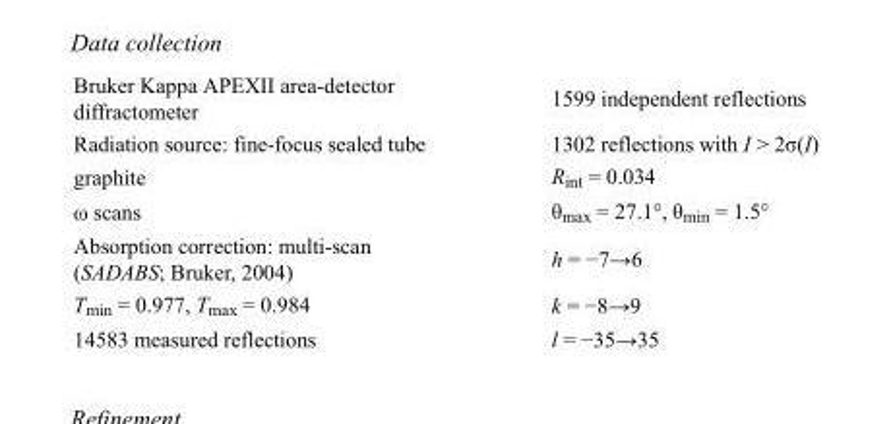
<table><tbody><tr><td>Bruker Kappa APEXII area-detector diffractometer</td><td>1599 independent reflections</td></tr><tr><td>Radiation source: fine-focus sealed tube</td><td>1302 reflections with I &gt; 2σ(I)</td></tr><tr><td>graphite</td><td>R<sub>int</sub> = 0.034</td></tr><tr><td>ω scans</td><td>θ<sub>max</sub> = 27.1°, θ<sub>min</sub> = 1.5°</td></tr><tr><td>Absorption correction: multi-scan (SADABS; Bruker, 2004)</td><td>h = −7→6</td></tr><tr><td>T<sub>min</sub> = 0.977, T<sub>max</sub> = 0.984</td><td>k = −8→9</td></tr><tr><td>14583 measured reflections</td><td>l = −35→35</td></tr></tbody></table>